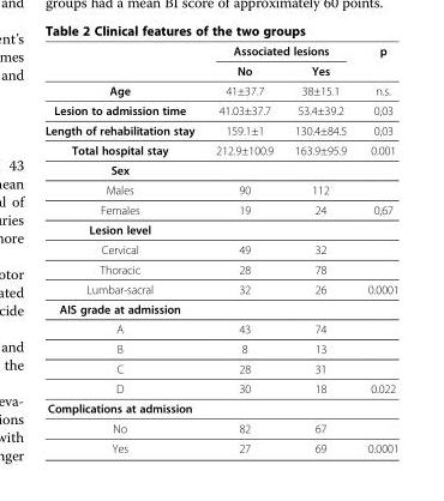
<table><thead><tr><td rowspan="2"></td><td colspan="2">Associated lesions</td><td rowspan="2">p</td></tr><tr><td>No</td><td>Yes</td></tr></thead><tbody><tr><td>Age</td><td>41±37.7</td><td>38±15.1</td><td>n.s.</td></tr><tr><td>Lesion to admission time</td><td>41.03±37.7</td><td>53.4±39.2</td><td>0,03</td></tr><tr><td>Length of rehabilitation stay</td><td>159.1±1</td><td>130.4±84.5</td><td>0,03</td></tr><tr><td>Total hospital stay</td><td>212.9±100.9</td><td>163.9±95.9</td><td>0.001</td></tr><tr><td colspan="4">Sex</td></tr><tr><td>Males</td><td>90</td><td>112</td><td></td></tr><tr><td>Females</td><td>19</td><td>24</td><td>0,67</td></tr><tr><td colspan="4">Lesion level</td></tr><tr><td>Cervical</td><td>49</td><td>32</td><td></td></tr><tr><td>Thoracic</td><td>28</td><td>78</td><td></td></tr><tr><td>Lumbar-sacral</td><td>32</td><td>26</td><td>0.0001</td></tr><tr><td colspan="4">AIS grade at admission</td></tr><tr><td>A</td><td>43</td><td>74</td><td></td></tr><tr><td>B</td><td>8</td><td>13</td><td></td></tr><tr><td>C</td><td>28</td><td>31</td><td></td></tr><tr><td>D</td><td>30</td><td>18</td><td>0.022</td></tr><tr><td colspan="4">Complications at admission</td></tr><tr><td>No</td><td>82</td><td>67</td><td></td></tr><tr><td>Yes</td><td>27</td><td>69</td><td>0.0001</td></tr></tbody></table>